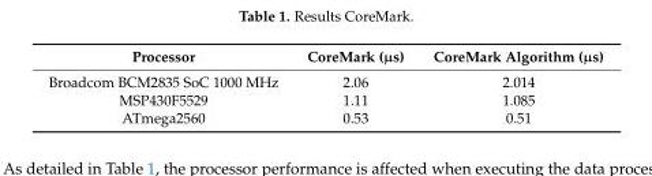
<table><thead><tr><td>Processor</td><td>CoreMark (µs)</td><td>CoreMark Algorithm (µs)</td></tr></thead><tbody><tr><td>Broadcom BCM2835 SoC 1000 MHz</td><td>2.06</td><td>2.014</td></tr><tr><td>MSP430F5529</td><td>1.11</td><td>1.085</td></tr><tr><td>ATmega2560</td><td>0.53</td><td>0.51</td></tr></tbody></table>